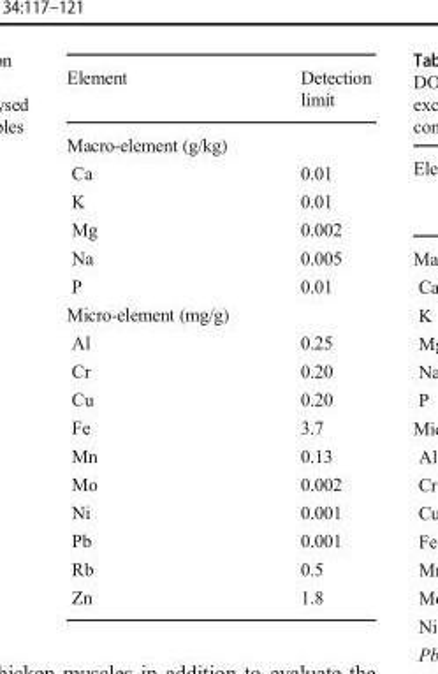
<table><thead><tr><td>Element</td><td>Detection limit</td></tr></thead><tbody><tr><td colspan="2">Macro-element (g/kg)</td></tr><tr><td>Ca</td><td>0.01</td></tr><tr><td>K</td><td>0.01</td></tr><tr><td>Mg</td><td>0.002</td></tr><tr><td>Na</td><td>0.005</td></tr><tr><td>P</td><td>0.01</td></tr><tr><td colspan="2">Micro-element (mg/g)</td></tr><tr><td>Al</td><td>0.25</td></tr><tr><td>Cr</td><td>0.20</td></tr><tr><td>Cu</td><td>0.20</td></tr><tr><td>Fe</td><td>3.7</td></tr><tr><td>Mn</td><td>0.13</td></tr><tr><td>Mo</td><td>0.002</td></tr><tr><td>Ni</td><td>0.001</td></tr><tr><td>Pb</td><td>0.001</td></tr><tr><td>Rb</td><td>0.5</td></tr><tr><td>Zn</td><td>1.8</td></tr></tbody></table>